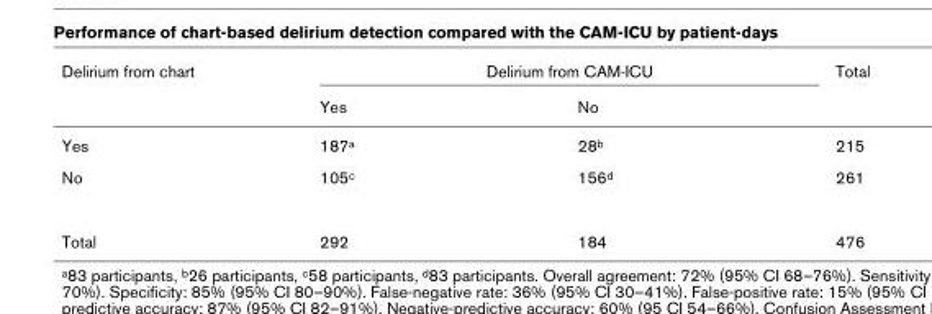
<table><thead><tr><td rowspan="2">Delirium from chart</td><td colspan="2">Delirium from CAM-ICU</td><td rowspan="2">Total</td></tr><tr><td>Yes</td><td>No</td></tr></thead><tbody><tr><td>Yes</td><td>187a</td><td>28b</td><td>215</td></tr><tr><td>No</td><td>105c</td><td>156d</td><td>261</td></tr><tr><td>Total</td><td>292</td><td>184</td><td>476</td></tr></tbody></table>